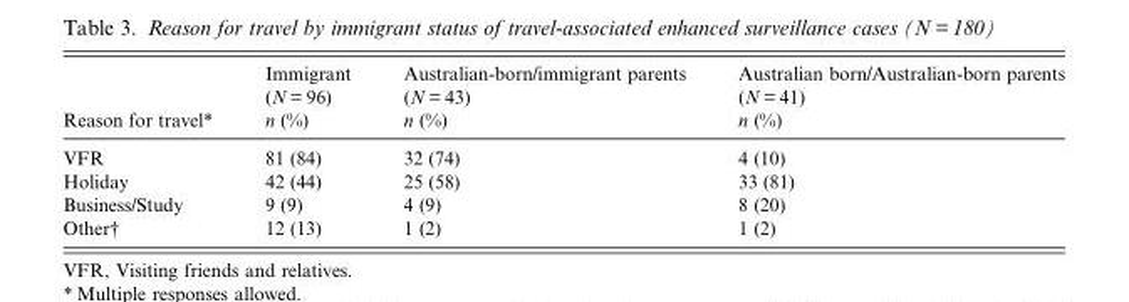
<table><thead><tr><td rowspan="3">Reason for travel*</td><td rowspan="3">Immigrant (N = 96) n (%)</td><td rowspan="3">Australian-born/immigrant parents (N = 43) n (%)</td><td rowspan="3">Australian born/Australian-born parents (N = 41) n (%)</td></tr><tr></tr><tr></tr></thead><tbody><tr><td>VFR</td><td>81 (84)</td><td>32 (74)</td><td>4 (10)</td></tr><tr><td>Holiday</td><td>42 (44)</td><td>25 (58)</td><td>33 (81)</td></tr><tr><td>Business/Study</td><td>9 (9)</td><td>4 (9)</td><td>8 (20)</td></tr><tr><td>Other†</td><td>12 (13)</td><td>1 (2)</td><td>1 (2)</td></tr></tbody></table>